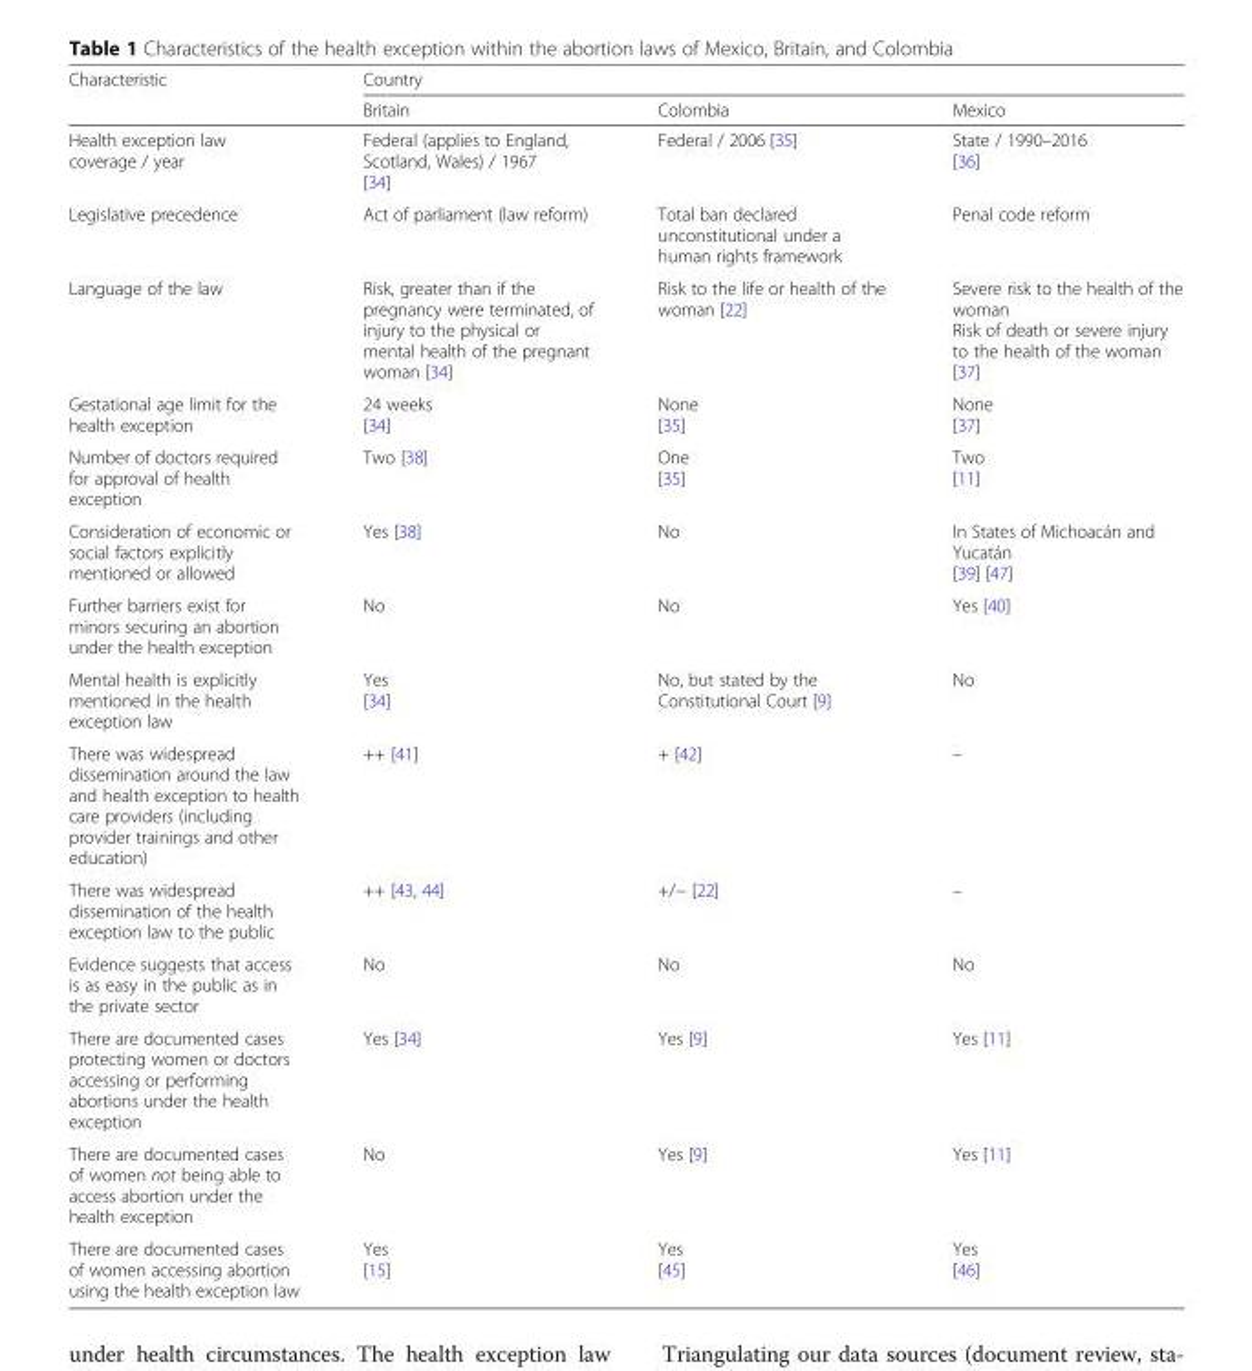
<table><thead><tr><td rowspan="2">Characteristic</td><td colspan="3">Country</td></tr><tr><td>Britain</td><td>Colombia</td><td>Mexico</td></tr></thead><tbody><tr><td>Health exception law coverage / year</td><td>Federal (applies to England, Scotland, Wales) / 1967 [34]</td><td>Federal / 2006 [35]</td><td>State / 1990–2016 [36]</td></tr><tr><td>Legislative precedence</td><td>Act of parliament (law reform)</td><td>Total ban declared unconstitutional under a human rights framework</td><td>Penal code reform</td></tr><tr><td>Language of the law</td><td>Risk, greater than if the pregnancy were terminated, of injury to the physical or mental health of the pregnant woman [34]</td><td>Risk to the life or health of the woman [22]</td><td>Severe risk to the health of the woman Risk of death or severe injury to the health of the woman [37]</td></tr><tr><td>Gestational age limit for the health exception</td><td>24 weeks [34]</td><td>None [35]</td><td>None [37]</td></tr><tr><td>Number of doctors required for approval of health exception</td><td>Two [38]</td><td>One [35]</td><td>Two [11]</td></tr><tr><td>Consideration of economic or social factors explicitly mentioned or allowed</td><td>Yes [38]</td><td>No</td><td>In States of Michoacán and Yucatán [39] [47]</td></tr><tr><td>Further barriers exist for minors securing an abortion under the health exception</td><td>No</td><td>No</td><td>Yes [40]</td></tr><tr><td>Mental health is explicitly mentioned in the health exception law</td><td>Yes [34]</td><td>No, but stated by the Constitutional Court [9]</td><td>No</td></tr><tr><td>There was widespread dissemination around the law and health exception to health care providers (including provider trainings and other education)</td><td>++ [41]</td><td>+ [42]</td><td>–</td></tr><tr><td>There was widespread dissemination of the health exception law to the public</td><td>++ [43, 44]</td><td>+/− [22]</td><td>–</td></tr><tr><td>Evidence suggests that access is as easy in the public as in the private sector</td><td>No</td><td>No</td><td>No</td></tr><tr><td>There are documented cases protecting women or doctors accessing or performing abortions under the health exception</td><td>Yes [34]</td><td>Yes [9]</td><td>Yes [11]</td></tr><tr><td>There are documented cases of women not being able to access abortion under the health exception</td><td>No</td><td>Yes [9]</td><td>Yes [11]</td></tr><tr><td>There are documented cases of women accessing abortion using the health exception law</td><td>Yes [15]</td><td>Yes [45]</td><td>Yes [46]</td></tr></tbody></table>